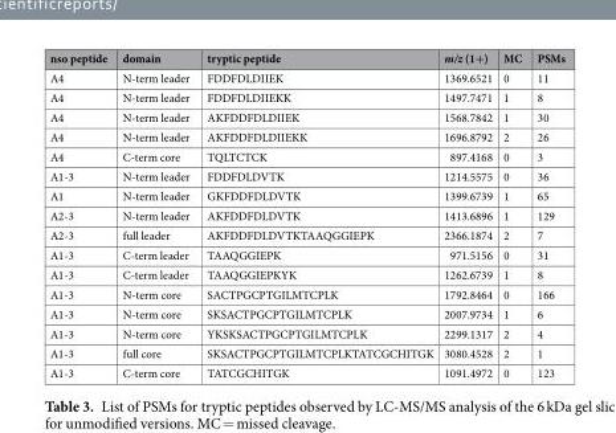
<table><thead><tr><td>nso peptide</td><td>domain</td><td>tryptic peptide</td><td>m/z (1+)</td><td>MC</td><td>PSMs</td></tr></thead><tbody><tr><td>A4</td><td>N-term leader</td><td>FDDFDLDIIEK</td><td>1369.6521</td><td>0</td><td>11</td></tr><tr><td>A4</td><td>N-term leader</td><td>FDDFDLDIIEKK</td><td>1497.7471</td><td>1</td><td>8</td></tr><tr><td>A4</td><td>N-term leader</td><td>AKFDDFDLDIIEK</td><td>1568.7842</td><td>1</td><td>30</td></tr><tr><td>A4</td><td>N-term leader</td><td>AKFDDFDLDIIEKK</td><td>1696.8792</td><td>2</td><td>26</td></tr><tr><td>A4</td><td>C-term core</td><td>TQLTCTCK</td><td>897.4168</td><td>0</td><td>3</td></tr><tr><td>A1-3</td><td>N-term leader</td><td>FDDFDLDVTK</td><td>1214.5575</td><td>0</td><td>36</td></tr><tr><td>A1</td><td>N-term leader</td><td>GKFDDFDLDVTK</td><td>1399.6739</td><td>1</td><td>65</td></tr><tr><td>A2-3</td><td>N-term leader</td><td>AKFDDFDLDVTK</td><td>1413.6896</td><td>1</td><td>129</td></tr><tr><td>A2-3</td><td>full leader</td><td>AKFDDFDLDVTKTAAQGGIEPK</td><td>2366.1874</td><td>2</td><td>7</td></tr><tr><td>A1-3</td><td>C-term leader</td><td>TAAQGGIEPK</td><td>971.5156</td><td>0</td><td>31</td></tr><tr><td>A1-3</td><td>C-term leader</td><td>TAAQGGIEPKYK</td><td>1262.6739</td><td>1</td><td>8</td></tr><tr><td>A1-3</td><td>N-term core</td><td>SACTPGCPTGILMTCPLK</td><td>1792.8464</td><td>0</td><td>166</td></tr><tr><td>A1-3</td><td>N-term core</td><td>SKSACTPGCPTGILMTCPLK</td><td>2007.9734</td><td>1</td><td>6</td></tr><tr><td>A1-3</td><td>N-term core</td><td>YKSKSACTPGCPTGILMTCPLK</td><td>2299.1317</td><td>2</td><td>4</td></tr><tr><td>A1-3</td><td>full core</td><td>SKSACTPGCPTGILMTCPLKTATCGCHITGK</td><td>3080.4528</td><td>2</td><td>1</td></tr><tr><td>A1-3</td><td>C-term core</td><td>TATCGCHITGK</td><td>1091.4972</td><td>0</td><td>123</td></tr></tbody></table>